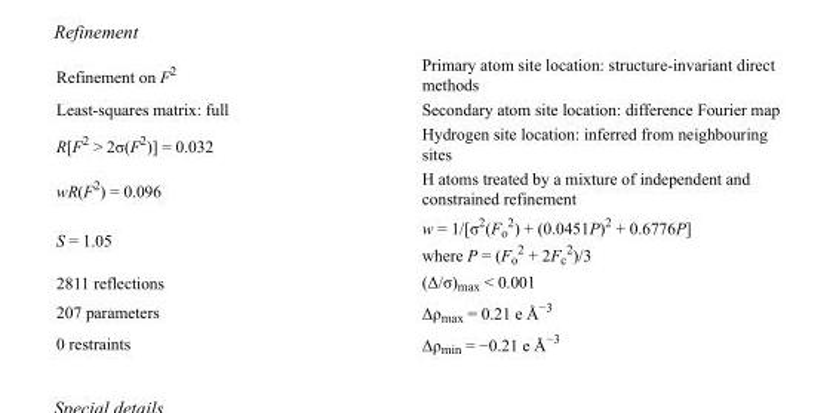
<table><tbody><tr><td>Refinement on F<sup>2</sup></td><td>Primary atom site location: structure-invariant direct methods</td></tr><tr><td>Least-squares matrix: full</td><td>Secondary atom site location: difference Fourier map</td></tr><tr><td>R[F<sup>2</sup> &gt; 2σ(F<sup>2</sup>)] = 0.032</td><td>Hydrogen site location: inferred from neighbouring sites</td></tr><tr><td>wR(F<sup>2</sup>) = 0.096</td><td>H atoms treated by a mixture of independent and constrained refinement</td></tr><tr><td>S = 1.05</td><td>w = 1/[σ<sup>2</sup>(F<sub>o</sub> <sup>2</sup>) + (0.0451P)<sup>2</sup> + 0.6776P] where P = (F<sub>o</sub> <sup>2</sup> + 2F<sub>c</sub> <sup>2</sup>)/3</td></tr><tr><td>2811 reflections</td><td>(Δ/σ)<sub>max</sub> &lt; 0.001</td></tr><tr><td>207 parameters</td><td>Δρ<sub>max</sub> = 0.21 e Å<sup>−3</sup></td></tr><tr><td>0 restraints</td><td>Δρ<sub>min</sub> = −0.21 e Å<sup>−3</sup></td></tr></tbody></table>